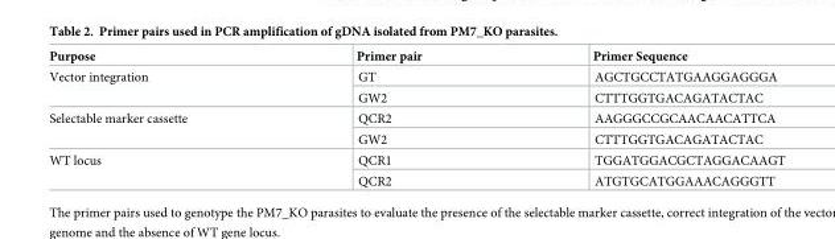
<table><thead><tr><td>Purpose</td><td>Primer pair</td><td>Primer Sequence</td></tr></thead><tbody><tr><td rowspan="2">Vector integration</td><td>GT</td><td>AGCTGCCTATGAAGGAGGGA</td></tr><tr><td>GW2</td><td>CTTTGGTGACAGATACTAC</td></tr><tr><td rowspan="2">Selectable marker cassette</td><td>QCR2</td><td>AAGGGCCGCAACAACATTCA</td></tr><tr><td>GW2</td><td>CTTTGGTGACAGATACTAC</td></tr><tr><td rowspan="2">WT locus</td><td>QCR1</td><td>TGGATGGACGCTAGGACAAGT</td></tr><tr><td>QCR2</td><td>ATGTGCATGGAAACAGGGTT</td></tr></tbody></table>